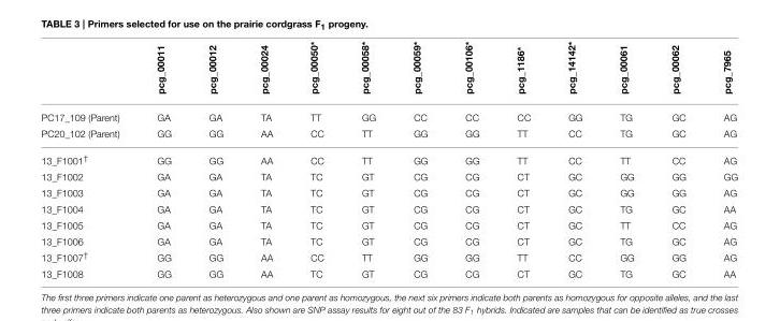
<table><thead><tr><td></td><td>pcg_00011</td><td>pcg_00012</td><td>pcg_00024</td><td>pcg_00050*</td><td>pcg_00058*</td><td>pcg_00059*</td><td>pcg_00106*</td><td>pcg_1186*</td><td>pcg_14142*</td><td>pcg_00061</td><td>pcg_00062</td><td>pcg_7965</td></tr></thead><tbody><tr><td>PC17_109 (Parent)</td><td>GA</td><td>GA</td><td>TA</td><td>TT</td><td>GG</td><td>CC</td><td>CC</td><td>CC</td><td>GG</td><td>TG</td><td>GC</td><td>AG</td></tr><tr><td>PC20_102 (Parent)</td><td>GG</td><td>GG</td><td>AA</td><td>CC</td><td>TT</td><td>GG</td><td>GG</td><td>TT</td><td>CC</td><td>TG</td><td>GC</td><td>AG</td></tr><tr><td>13_F1001<sup>†</sup></td><td>GG</td><td>GG</td><td>AA</td><td>CC</td><td>TT</td><td>GG</td><td>GG</td><td>TT</td><td>CC</td><td>TT</td><td>CC</td><td>AG</td></tr><tr><td>13_F1002</td><td>GA</td><td>GA</td><td>TA</td><td>TC</td><td>GT</td><td>CG</td><td>CG</td><td>CT</td><td>GC</td><td>GG</td><td>GG</td><td>GG</td></tr><tr><td>13_F1003</td><td>GA</td><td>GA</td><td>TA</td><td>TC</td><td>GT</td><td>CG</td><td>CG</td><td>CT</td><td>GC</td><td>GG</td><td>GG</td><td>AG</td></tr><tr><td>13_F1004</td><td>GA</td><td>GA</td><td>TA</td><td>TC</td><td>GT</td><td>CG</td><td>CG</td><td>CT</td><td>GC</td><td>TG</td><td>GC</td><td>AA</td></tr><tr><td>13_F1005</td><td>GA</td><td>GA</td><td>TA</td><td>TC</td><td>GT</td><td>CG</td><td>CG</td><td>CT</td><td>GC</td><td>TT</td><td>CC</td><td>AG</td></tr><tr><td>13_F1006</td><td>GA</td><td>GA</td><td>TA</td><td>TC</td><td>GT</td><td>CG</td><td>CG</td><td>CT</td><td>GC</td><td>TG</td><td>GC</td><td>AG</td></tr><tr><td>13_F1007<sup>†</sup></td><td>GG</td><td>GG</td><td>AA</td><td>CC</td><td>TT</td><td>GG</td><td>GG</td><td>TT</td><td>CC</td><td>GG</td><td>GG</td><td>AG</td></tr><tr><td>13_F1008</td><td>GG</td><td>GG</td><td>AA</td><td>TC</td><td>GT</td><td>CG</td><td>CG</td><td>CT</td><td>GC</td><td>TG</td><td>GC</td><td>AA</td></tr></tbody></table>